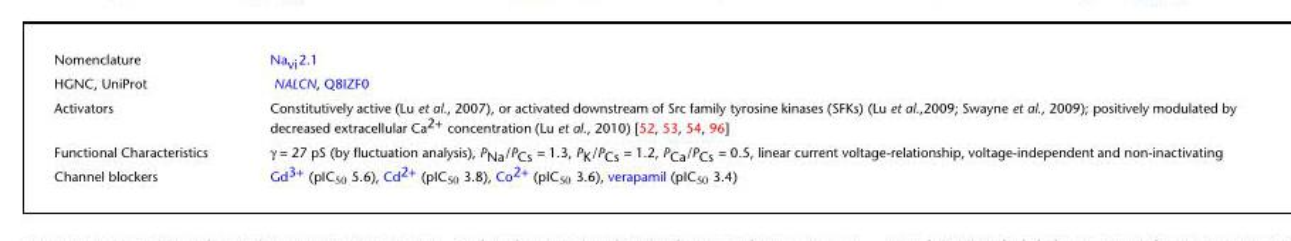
<table><tbody><tr><td>Nomenclature</td><td>Na<sub>vi</sub>2.1</td></tr><tr><td>HGNC, UniProt</td><td>NALCN, Q8IZF0</td></tr><tr><td>Activators</td><td>Constitutively active (Lu et al., 2007), or activated downstream of Src family tyrosine kinases (SFKs) (Lu et al.,2009; Swayne et al., 2009); positively modulated by decreased extracellular Ca<sup>2+</sup> concentration (Lu et al., 2010) [52, 53, 54, 96]</td></tr><tr><td>Functional Characteristics</td><td>γ = 27 pS (by fluctuation analysis), P<sub>Na</sub>/P<sub>Cs</sub> = 1.3, P<sub>K</sub>/P<sub>Cs</sub> = 1.2, P<sub>Ca</sub>/P<sub>Cs</sub> = 0.5, linear current voltage-relationship, voltage-independent and non-inactivating</td></tr><tr><td>Channel blockers</td><td>Gd<sup>3+</sup> (pIC<sub>50</sub> 5.6), Cd<sup>2+</sup> (pIC<sub>50</sub> 3.8), Co<sup>2+</sup> (pIC<sub>50</sub> 3.6), verapamil (pIC<sub>50</sub> 3.4)</td></tr></tbody></table>